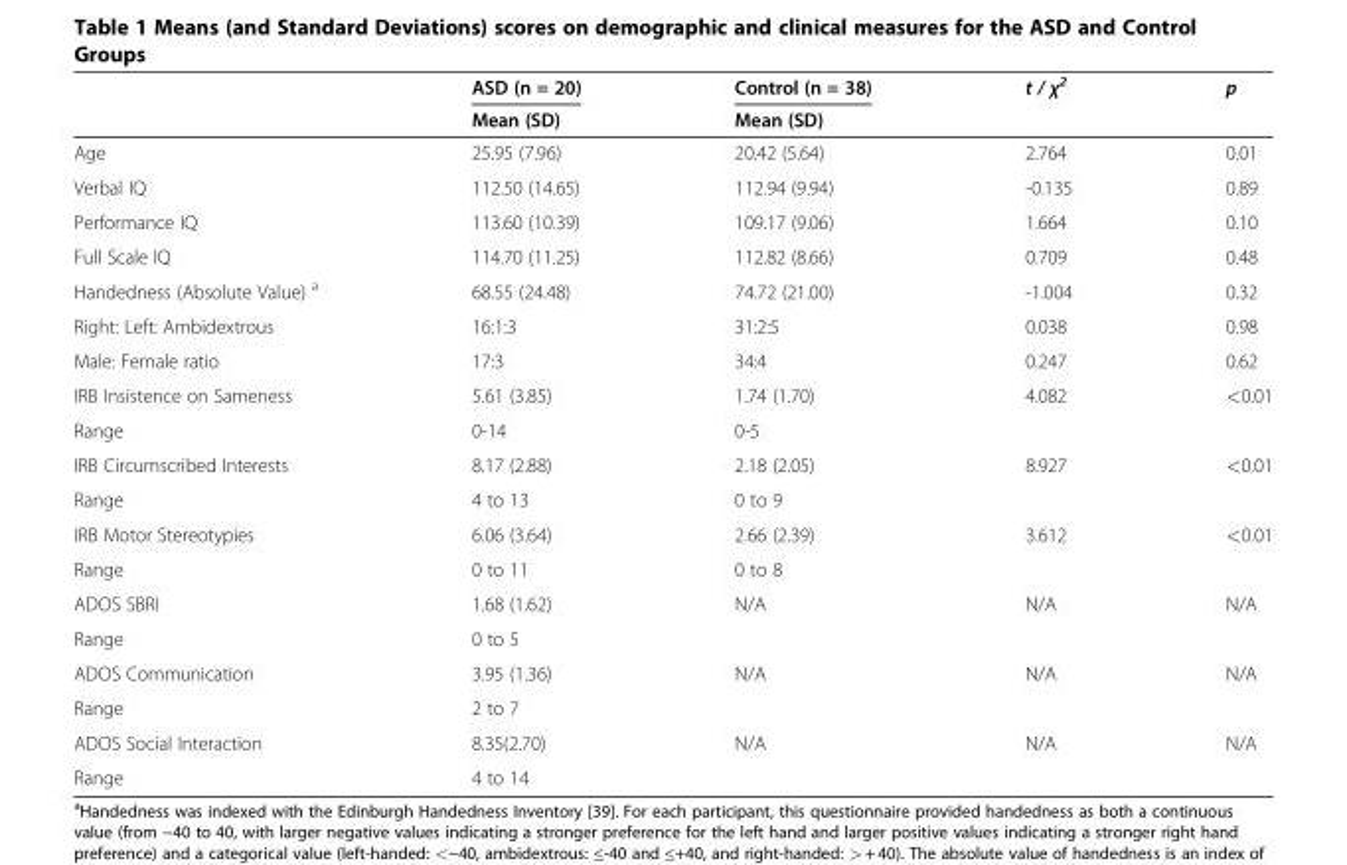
<table><thead><tr><td rowspan="2"></td><td rowspan="2">ASD (n = 20) Mean (SD)</td><td rowspan="2">Control (n = 38) Mean (SD)</td><td rowspan="2">t / χ<sup>2</sup></td><td rowspan="2">p</td></tr><tr></tr></thead><tbody><tr><td>Age</td><td>25.95 (7.96)</td><td>20.42 (5.64)</td><td>2.764</td><td>0.01</td></tr><tr><td>Verbal IQ</td><td>112.50 (14.65)</td><td>112.94 (9.94)</td><td>-0.135</td><td>0.89</td></tr><tr><td>Performance IQ</td><td>113.60 (10.39)</td><td>109.17 (9.06)</td><td>1.664</td><td>0.10</td></tr><tr><td>Full Scale IQ</td><td>114.70 (11.25)</td><td>112.82 (8.66)</td><td>0.709</td><td>0.48</td></tr><tr><td>Handedness (Absolute Value) <sup>a</sup></td><td>68.55 (24.48)</td><td>74.72 (21.00)</td><td>-1.004</td><td>0.32</td></tr><tr><td>Right: Left: Ambidextrous</td><td>16:1:3</td><td>31:2:5</td><td>0.038</td><td>0.98</td></tr><tr><td>Male: Female ratio</td><td>17:3</td><td>34:4</td><td>0.247</td><td>0.62</td></tr><tr><td>IRB Insistence on Sameness</td><td>5.61 (3.85)</td><td>1.74 (1.70)</td><td rowspan="2">4.082</td><td rowspan="2">&lt;0.01</td></tr><tr><td>Range</td><td>0-14</td><td>0-5</td></tr><tr><td>IRB Circumscribed Interests</td><td>8.17 (2.88)</td><td>2.18 (2.05)</td><td rowspan="2">8.927</td><td rowspan="2">&lt;0.01</td></tr><tr><td>Range</td><td>4 to 13</td><td>0 to 9</td></tr><tr><td>IRB Motor Stereotypies</td><td>6.06 (3.64)</td><td>2.66 (2.39)</td><td rowspan="2">3.612</td><td rowspan="2">&lt;0.01</td></tr><tr><td>Range</td><td>0 to 11</td><td>0 to 8</td></tr><tr><td>ADOS SBRI</td><td>1.68 (1.62)</td><td rowspan="2">N/A</td><td rowspan="2">N/A</td><td rowspan="2">N/A</td></tr><tr><td>Range</td><td>0 to 5</td></tr><tr><td>ADOS Communication</td><td>3.95 (1.36)</td><td rowspan="2">N/A</td><td rowspan="2">N/A</td><td rowspan="2">N/A</td></tr><tr><td>Range</td><td>2 to 7</td></tr><tr><td>ADOS Social Interaction</td><td>8.35(2.70)</td><td rowspan="2">N/A</td><td rowspan="2">N/A</td><td rowspan="2">N/A</td></tr><tr><td>Range</td><td>4 to 14</td></tr></tbody></table>